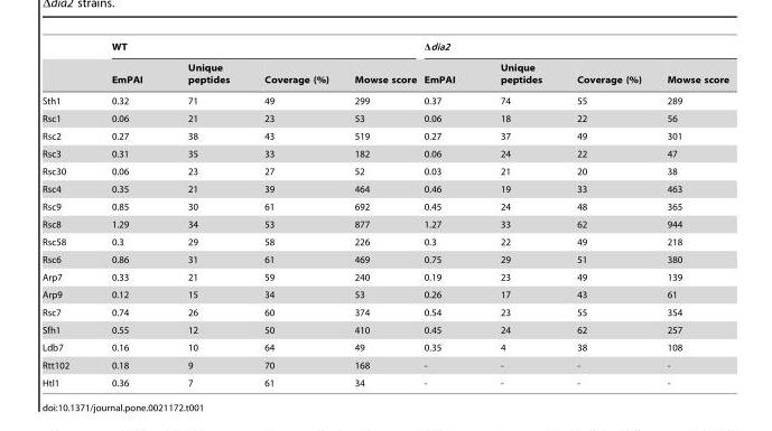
<table><thead><tr><td rowspan="2"></td><td colspan="4">WT</td><td colspan="4">Δdia2</td></tr><tr><td>EmPAI</td><td>Unique peptides</td><td>Coverage (%)</td><td>Mowse score</td><td>EmPAI</td><td>Unique peptides</td><td>Coverage (%)</td><td>Mowse score</td></tr></thead><tbody><tr><td>Sth1</td><td>0.32</td><td>71</td><td>49</td><td>299</td><td>0.37</td><td>74</td><td>55</td><td>289</td></tr><tr><td>Rsc1</td><td>0.06</td><td>21</td><td>23</td><td>53</td><td>0.06</td><td>18</td><td>22</td><td>56</td></tr><tr><td>Rsc2</td><td>0.27</td><td>38</td><td>43</td><td>519</td><td>0.27</td><td>37</td><td>49</td><td>301</td></tr><tr><td>Rsc3</td><td>0.31</td><td>35</td><td>33</td><td>182</td><td>0.06</td><td>24</td><td>22</td><td>47</td></tr><tr><td>Rsc30</td><td>0.06</td><td>23</td><td>27</td><td>52</td><td>0.03</td><td>21</td><td>20</td><td>38</td></tr><tr><td>Rsc4</td><td>0.35</td><td>21</td><td>39</td><td>464</td><td>0.46</td><td>19</td><td>33</td><td>463</td></tr><tr><td>Rsc9</td><td>0.85</td><td>30</td><td>61</td><td>692</td><td>0.45</td><td>24</td><td>48</td><td>365</td></tr><tr><td>Rsc8</td><td>1.29</td><td>34</td><td>53</td><td>877</td><td>1.27</td><td>33</td><td>62</td><td>944</td></tr><tr><td>Rsc58</td><td>0.3</td><td>29</td><td>58</td><td>226</td><td>0.3</td><td>22</td><td>49</td><td>218</td></tr><tr><td>Rsc6</td><td>0.86</td><td>31</td><td>61</td><td>469</td><td>0.75</td><td>29</td><td>51</td><td>380</td></tr><tr><td>Arp7</td><td>0.33</td><td>21</td><td>59</td><td>240</td><td>0.19</td><td>23</td><td>49</td><td>139</td></tr><tr><td>Arp9</td><td>0.12</td><td>15</td><td>34</td><td>53</td><td>0.26</td><td>17</td><td>43</td><td>61</td></tr><tr><td>Rsc7</td><td>0.74</td><td>26</td><td>60</td><td>374</td><td>0.54</td><td>23</td><td>55</td><td>354</td></tr><tr><td>Sfh1</td><td>0.55</td><td>12</td><td>50</td><td>410</td><td>0.45</td><td>24</td><td>62</td><td>257</td></tr><tr><td>Ldb7</td><td>0.16</td><td>10</td><td>64</td><td>49</td><td>0.35</td><td>4</td><td>38</td><td>108</td></tr><tr><td>Rtt102</td><td>0.18</td><td>9</td><td>70</td><td>168</td><td>-</td><td>-</td><td>-</td><td>-</td></tr><tr><td>Htl1</td><td>0.36</td><td>7</td><td>61</td><td>34</td><td>-</td><td>-</td><td>-</td><td>-</td></tr></tbody></table>